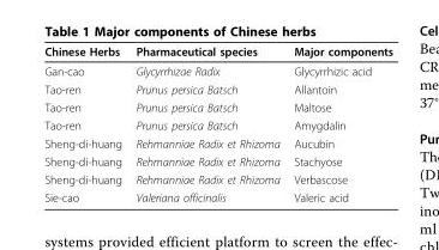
<table><thead><tr><td>Chinese Herbs</td><td>Pharmaceutical species</td><td>Major components</td></tr></thead><tbody><tr><td>Gan-cao</td><td>Glycyrrhizae Radix</td><td>Glycyrrhizic acid</td></tr><tr><td>Tao-ren</td><td>Prunus persica Batsch</td><td>Allantoin</td></tr><tr><td>Tao-ren</td><td>Prunus persica Batsch</td><td>Maltose</td></tr><tr><td>Tao-ren</td><td>Prunus persica Batsch</td><td>Amygdalin</td></tr><tr><td>Sheng-di-huang</td><td>Rehmanniae Radix et Rhizoma</td><td>Aucubin</td></tr><tr><td>Sheng-di-huang</td><td>Rehmanniae Radix et Rhizoma</td><td>Stachyose</td></tr><tr><td>Sheng-di-huang</td><td>Rehmanniae Radix et Rhizoma</td><td>Verbascose</td></tr><tr><td>Sie-cao</td><td>Valeriana officinalis</td><td>Valeric acid</td></tr></tbody></table>